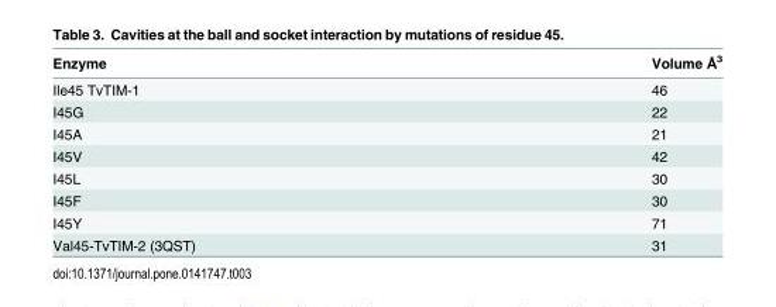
<table><thead><tr><td>Enzyme</td><td>Volume Å<sup>3</sup></td></tr></thead><tbody><tr><td>Ile45 TvTIM-1</td><td>46</td></tr><tr><td>I45G</td><td>22</td></tr><tr><td>I45A</td><td>21</td></tr><tr><td>I45V</td><td>42</td></tr><tr><td>I45L</td><td>30</td></tr><tr><td>I45F</td><td>30</td></tr><tr><td>I45Y</td><td>71</td></tr><tr><td>Val45-TvTIM-2 (3QST)</td><td>31</td></tr></tbody></table>